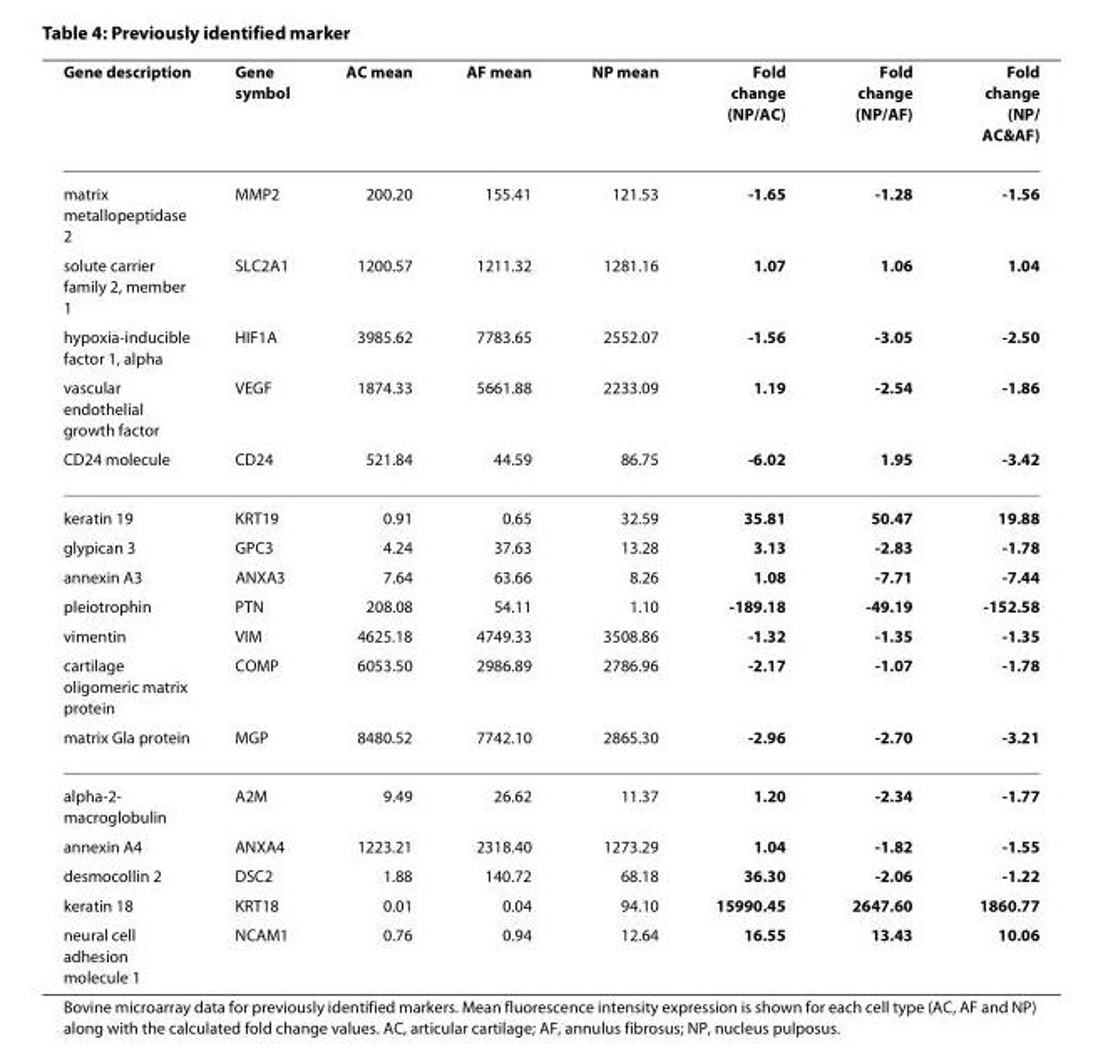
<table><thead><tr><td>Gene description</td><td>Gene symbol</td><td>AC mean</td><td>AF mean</td><td>NP mean</td><td>Fold change (NP/AC)</td><td>Fold change (NP/AF)</td><td>Fold change (NP/ AC&amp;AF)</td></tr></thead><tbody><tr><td>matrix metallopeptidase 2</td><td>MMP2</td><td>200.20</td><td>155.41</td><td>121.53</td><td>-1.65</td><td>-1.28</td><td>-1.56</td></tr><tr><td>solute carrier family 2, member 1</td><td>SLC2A1</td><td>1200.57</td><td>1211.32</td><td>1281.16</td><td>1.07</td><td>1.06</td><td>1.04</td></tr><tr><td>hypoxia-inducible factor 1, alpha</td><td>HIF1A</td><td>3985.62</td><td>7783.65</td><td>2552.07</td><td>-1.56</td><td>-3.05</td><td>-2.50</td></tr><tr><td>vascular endothelial growth factor</td><td>VEGF</td><td>1874.33</td><td>5661.88</td><td>2233.09</td><td>1.19</td><td>-2.54</td><td>-1.86</td></tr><tr><td>CD24 molecule</td><td>CD24</td><td>521.84</td><td>44.59</td><td>86.75</td><td>-6.02</td><td>1.95</td><td>-3.42</td></tr><tr><td>keratin 19</td><td>KRT19</td><td>0.91</td><td>0.65</td><td>32.59</td><td>35.81</td><td>50.47</td><td>19.88</td></tr><tr><td>glypican 3</td><td>GPC3</td><td>4.24</td><td>37.63</td><td>13.28</td><td>3.13</td><td>-2.83</td><td>-1.78</td></tr><tr><td>annexin A3</td><td>ANXA3</td><td>7.64</td><td>63.66</td><td>8.26</td><td>1.08</td><td>-7.71</td><td>-7.44</td></tr><tr><td>pleiotrophin</td><td>PTN</td><td>208.08</td><td>54.11</td><td>1.10</td><td>-189.18</td><td>-49.19</td><td>-152.58</td></tr><tr><td>vimentin</td><td>VIM</td><td>4625.18</td><td>4749.33</td><td>3508.86</td><td>-1.32</td><td>-1.35</td><td>-1.35</td></tr><tr><td>cartilage oligomeric matrix protein</td><td>COMP</td><td>6053.50</td><td>2986.89</td><td>2786.96</td><td>-2.17</td><td>-1.07</td><td>-1.78</td></tr><tr><td>matrix Gla protein</td><td>MGP</td><td>8480.52</td><td>7742.10</td><td>2865.30</td><td>-2.96</td><td>-2.70</td><td>-3.21</td></tr><tr><td>alpha-2- macroglobulin</td><td>A2M</td><td>9.49</td><td>26.62</td><td>11.37</td><td>1.20</td><td>-2.34</td><td>-1.77</td></tr><tr><td>annexin A4</td><td>ANXA4</td><td>1223.21</td><td>2318.40</td><td>1273.29</td><td>1.04</td><td>-1.82</td><td>-1.55</td></tr><tr><td>desmocollin 2</td><td>DSC2</td><td>1.88</td><td>140.72</td><td>68.18</td><td>36.30</td><td>-2.06</td><td>-1.22</td></tr><tr><td>keratin 18</td><td>KRT18</td><td>0.01</td><td>0.04</td><td>94.10</td><td>15990.45</td><td>2647.60</td><td>1860.77</td></tr><tr><td>neural cell adhesion molecule 1</td><td>NCAM1</td><td>0.76</td><td>0.94</td><td>12.64</td><td>16.55</td><td>13.43</td><td>10.06</td></tr></tbody></table>